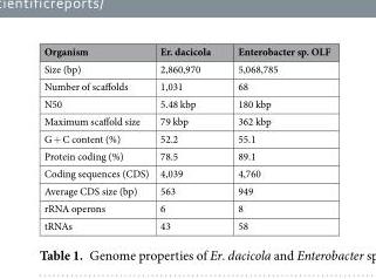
<table><thead><tr><td>Organism</td><td>Er. dacicola</td><td>Enterobacter sp. OLF</td></tr></thead><tbody><tr><td>Size (bp)</td><td>2,860,970</td><td>5,068,785</td></tr><tr><td>Number of scaffolds</td><td>1,031</td><td>68</td></tr><tr><td>N50</td><td>5.48 kbp</td><td>180 kbp</td></tr><tr><td>Maximum scaffold size</td><td>79 kbp</td><td>362 kbp</td></tr><tr><td>G + C content (%)</td><td>52.2</td><td>55.1</td></tr><tr><td>Protein coding (%)</td><td>78.5</td><td>89.1</td></tr><tr><td>Coding sequences (CDS)</td><td>4,039</td><td>4,760</td></tr><tr><td>Average CDS size (bp)</td><td>563</td><td>949</td></tr><tr><td>rRNA operons</td><td>6</td><td>8</td></tr><tr><td>tRNAs</td><td>43</td><td>58</td></tr></tbody></table>